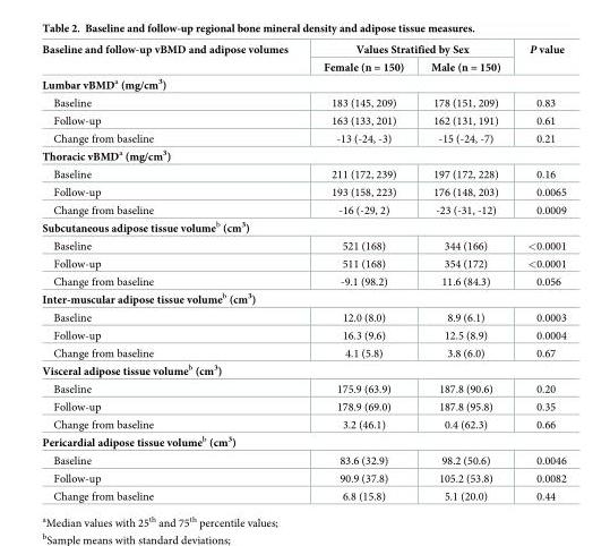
<table><thead><tr><td rowspan="2">Baseline and follow-up vBMD and adipose volumes</td><td colspan="2">Values Stratified by Sex</td><td rowspan="2">P value</td></tr><tr><td>Female (n = 150)</td><td>Male (n = 150)</td></tr></thead><tbody><tr><td colspan="4">Lumbar vBMD<sup>a</sup> (mg/cm<sup>3</sup>)</td></tr><tr><td>Baseline</td><td>183 (145, 209)</td><td>178 (151, 209)</td><td>0.83</td></tr><tr><td>Follow-up</td><td>163 (133, 201)</td><td>162 (131, 191)</td><td>0.61</td></tr><tr><td>Change from baseline</td><td>-13 (-24, -3)</td><td>-15 (-24, -7)</td><td>0.21</td></tr><tr><td colspan="4">Thoracic vBMD<sup>a</sup> (mg/cm<sup>3</sup>)</td></tr><tr><td>Baseline</td><td>211 (172, 239)</td><td>197 (172, 228)</td><td>0.16</td></tr><tr><td>Follow-up</td><td>193 (158, 223)</td><td>176 (148, 203)</td><td>0.0065</td></tr><tr><td>Change from baseline</td><td>-16 (-29, 2)</td><td>-23 (-31, -12)</td><td>0.0009</td></tr><tr><td colspan="4">Subcutaneous adipose tissue volume<sup>b</sup> (cm<sup>3</sup>)</td></tr><tr><td>Baseline</td><td>521 (168)</td><td>344 (166)</td><td>&lt;0.0001</td></tr><tr><td>Follow-up</td><td>511 (168)</td><td>354 (172)</td><td>&lt;0.0001</td></tr><tr><td>Change from baseline</td><td>-9.1 (98.2)</td><td>11.6 (84.3)</td><td>0.056</td></tr><tr><td colspan="4">Inter-muscular adipose tissue volume<sup>b</sup> (cm<sup>3</sup>)</td></tr><tr><td>Baseline</td><td>12.0 (8.0)</td><td>8.9 (6.1)</td><td>0.0003</td></tr><tr><td>Follow-up</td><td>16.3 (9.6)</td><td>12.5 (8.9)</td><td>0.0004</td></tr><tr><td>Change from baseline</td><td>4.1 (5.8)</td><td>3.8 (6.0)</td><td>0.67</td></tr><tr><td colspan="4">Visceral adipose tissue volume<sup>b</sup> (cm<sup>3</sup>)</td></tr><tr><td>Baseline</td><td>175.9 (63.9)</td><td>187.8 (90.6)</td><td>0.20</td></tr><tr><td>Follow-up</td><td>178.9 (69.0)</td><td>187.8 (95.8)</td><td>0.35</td></tr><tr><td>Change from baseline</td><td>3.2 (46.1)</td><td>0.4 (62.3)</td><td>0.66</td></tr><tr><td colspan="4">Pericardial adipose tissue volume<sup>b</sup> (cm<sup>3</sup>)</td></tr><tr><td>Baseline</td><td>83.6 (32.9)</td><td>98.2 (50.6)</td><td>0.0046</td></tr><tr><td>Follow-up</td><td>90.9 (37.8)</td><td>105.2 (53.8)</td><td>0.0082</td></tr><tr><td>Change from baseline</td><td>6.8 (15.8)</td><td>5.1 (20.0)</td><td>0.44</td></tr></tbody></table>